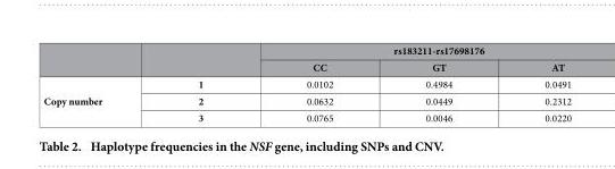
<table><thead><tr><td rowspan="2"></td><td rowspan="2"></td><td colspan="3">rs183211-rs17698176</td></tr><tr><td>CC</td><td>GT</td><td>AT</td></tr></thead><tbody><tr><td rowspan="3">Copy number</td><td>1</td><td>0.0102</td><td>0.4984</td><td>0.0491</td></tr><tr><td>2</td><td>0.0632</td><td>0.0449</td><td>0.2312</td></tr><tr><td>3</td><td>0.0765</td><td>0.0046</td><td>0.0220</td></tr></tbody></table>